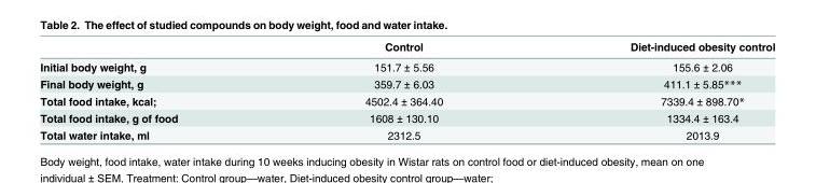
<table><thead><tr><td></td><td>Control</td><td>Diet-induced obesity control</td></tr></thead><tbody><tr><td>Initial body weight, g</td><td>151.7 ± 5.56</td><td>155.6 ± 2.06</td></tr><tr><td>Final body weight, g</td><td>359.7 ± 6.03</td><td>411.1 ± 5.85***</td></tr><tr><td>Total food intake, kcal;</td><td>4502.4 ± 364.40</td><td>7339.4 ± 898.70*</td></tr><tr><td>Total food intake, g of food</td><td>1608 ± 130.10</td><td>1334.4 ± 163.4</td></tr><tr><td>Total water intake, ml</td><td>2312.5</td><td>2013.9</td></tr></tbody></table>